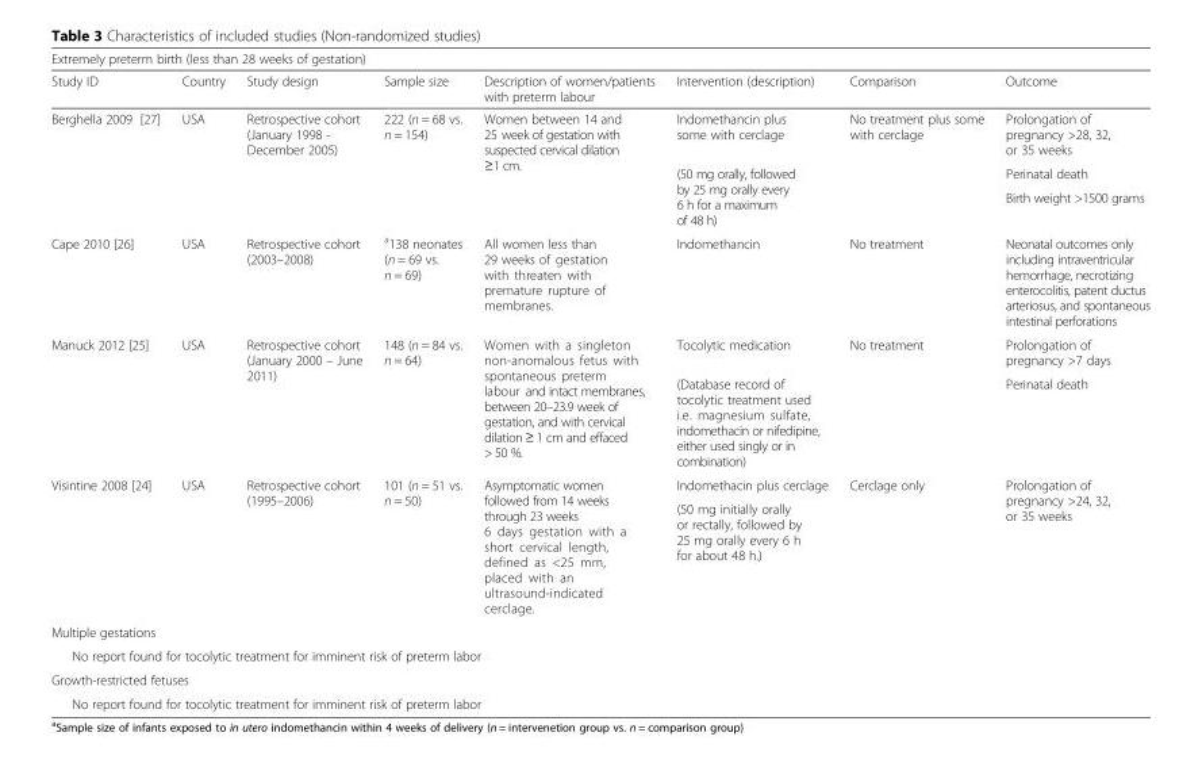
<table><thead><tr><td colspan="8">Extremely preterm birth (less than 28 weeks of gestation)</td></tr><tr><td>Study ID</td><td>Country</td><td>Study design</td><td>Sample size</td><td>Description of women/patients with preterm labour</td><td>Intervention (description)</td><td>Comparison</td><td>Outcome</td></tr></thead><tbody><tr><td rowspan="3">Berghella 2009 [27]</td><td rowspan="3">USA</td><td rowspan="3">Retrospective cohort (January 1998 - December 2005)</td><td rowspan="3">222 (n = 68 vs. n = 154)</td><td rowspan="3">Women between 14 and 25 week of gestation with suspected cervical dilation ≥1 cm.</td><td>Indomethancin plus some with cerclage</td><td rowspan="3">No treatment plus some with cerclage</td><td>Prolongation of pregnancy &gt;28, 32, or 35 weeks</td></tr><tr><td rowspan="2">(50 mg orally, followed by 25 mg orally every 6 h for a maximum of 48 h)</td><td>Perinatal death</td></tr><tr><td>Birth weight &gt;1500 grams</td></tr><tr><td>Cape 2010 [26]</td><td>USA</td><td>Retrospective cohort (2003–2008)</td><td><sup>a</sup>138 neonates (n = 69 vs. n = 69)</td><td>All women less than 29 weeks of gestation with threaten with premature rupture of membranes.</td><td>Indomethancin</td><td>No treatment</td><td>Neonatal outcomes only including intraventricular hemorrhage, necrotizing enterocolitis, patent ductus arteriosus, and spontaneous intestinal perforations</td></tr><tr><td rowspan="2">Manuck 2012 [25]</td><td rowspan="2">USA</td><td rowspan="2">Retrospective cohort (January 2000 – June 2011)</td><td rowspan="2">148 (n = 84 vs. n = 64)</td><td rowspan="2">Women with a singleton non-anomalous fetus with spontaneous preterm labour and intact membranes, between 20–23.9 week of gestation, and with cervical dilation ≥ 1 cm and effaced &gt; 50 %.</td><td>Tocolytic medication</td><td rowspan="2">No treatment</td><td>Prolongation of pregnancy &gt;7 days</td></tr><tr><td>(Database record of tocolytic treatment used i.e. magnesium sulfate, indomethacin or nifedipine, either used singly or in combination)</td><td>Perinatal death</td></tr><tr><td rowspan="2">Visintine 2008 [24]</td><td rowspan="2">USA</td><td rowspan="2">Retrospective cohort (1995–2006)</td><td rowspan="2">101 (n = 51 vs. n = 50)</td><td rowspan="2">Asymptomatic women followed from 14 weeks through 23 weeks 6 days gestation with a short cervical length, defined as &lt;25 mm, placed with an ultrasound-indicated cerclage.</td><td>Indomethacin plus cerclage</td><td rowspan="2">Cerclage only</td><td rowspan="2">Prolongation of pregnancy &gt;24, 32, or 35 weeks</td></tr><tr><td>(50 mg initially orally or rectally, followed by 25 mg orally every 6 h for about 48 h.)</td></tr><tr><td colspan="8">Multiple gestations</td></tr><tr><td colspan="8">No report found for tocolytic treatment for imminent risk of preterm labor</td></tr><tr><td colspan="8">Growth-restricted fetuses</td></tr><tr><td colspan="8">No report found for tocolytic treatment for imminent risk of preterm labor</td></tr></tbody></table>